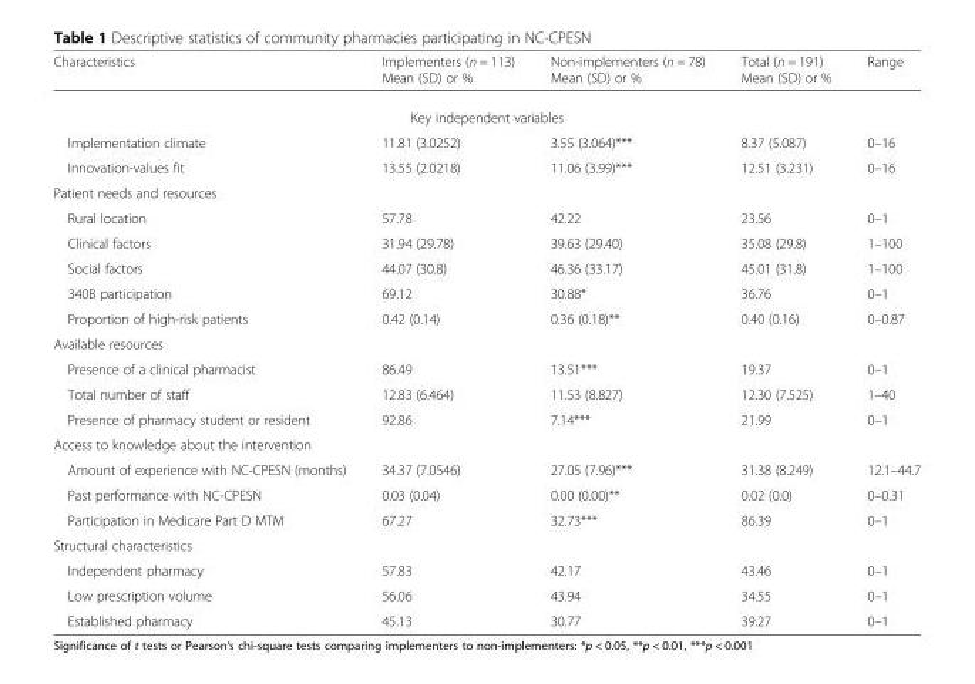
<table><thead><tr><td>Characteristics</td><td>Implementers (n = 113) Mean (SD) or %</td><td>Non-implementers (n = 78) Mean (SD) or %</td><td>Total (n = 191) Mean (SD) or %</td><td>Range</td></tr></thead><tbody><tr><td colspan="5">Key independent variables</td></tr><tr><td>Implementation climate</td><td>11.81 (3.0252)</td><td>3.55 (3.064)***</td><td>8.37 (5.087)</td><td>0–16</td></tr><tr><td>Innovation-values fit</td><td>13.55 (2.0218)</td><td>11.06 (3.99)***</td><td>12.51 (3.231)</td><td>0–16</td></tr><tr><td colspan="5">Patient needs and resources</td></tr><tr><td>Rural location</td><td>57.78</td><td>42.22</td><td>23.56</td><td>0–1</td></tr><tr><td>Clinical factors</td><td>31.94 (29.78)</td><td>39.63 (29.40)</td><td>35.08 (29.8)</td><td>1–100</td></tr><tr><td>Social factors</td><td>44.07 (30.8)</td><td>46.36 (33.17)</td><td>45.01 (31.8)</td><td>1–100</td></tr><tr><td>340B participation</td><td>69.12</td><td>30.88*</td><td>36.76</td><td>0–1</td></tr><tr><td>Proportion of high-risk patients</td><td>0.42 (0.14)</td><td>0.36 (0.18)**</td><td>0.40 (0.16)</td><td>0–0.87</td></tr><tr><td colspan="5">Available resources</td></tr><tr><td>Presence of a clinical pharmacist</td><td>86.49</td><td>13.51***</td><td>19.37</td><td>0–1</td></tr><tr><td>Total number of staff</td><td>12.83 (6.464)</td><td>11.53 (8.827)</td><td>12.30 (7.525)</td><td>1–40</td></tr><tr><td>Presence of pharmacy student or resident</td><td>92.86</td><td>7.14***</td><td>21.99</td><td>0–1</td></tr><tr><td colspan="5">Access to knowledge about the intervention</td></tr><tr><td>Amount of experience with NC-CPESN (months)</td><td>34.37 (7.0546)</td><td>27.05 (7.96)***</td><td>31.38 (8.249)</td><td>12.1–44.7</td></tr><tr><td>Past performance with NC-CPESN</td><td>0.03 (0.04)</td><td>0.00 (0.00)**</td><td>0.02 (0.0)</td><td>0–0.31</td></tr><tr><td>Participation in Medicare Part D MTM</td><td>67.27</td><td>32.73***</td><td>86.39</td><td>0–1</td></tr><tr><td colspan="5">Structural characteristics</td></tr><tr><td>Independent pharmacy</td><td>57.83</td><td>42.17</td><td>43.46</td><td>0–1</td></tr><tr><td>Low prescription volume</td><td>56.06</td><td>43.94</td><td>34.55</td><td>0–1</td></tr><tr><td>Established pharmacy</td><td>45.13</td><td>30.77</td><td>39.27</td><td>0–1</td></tr></tbody></table>